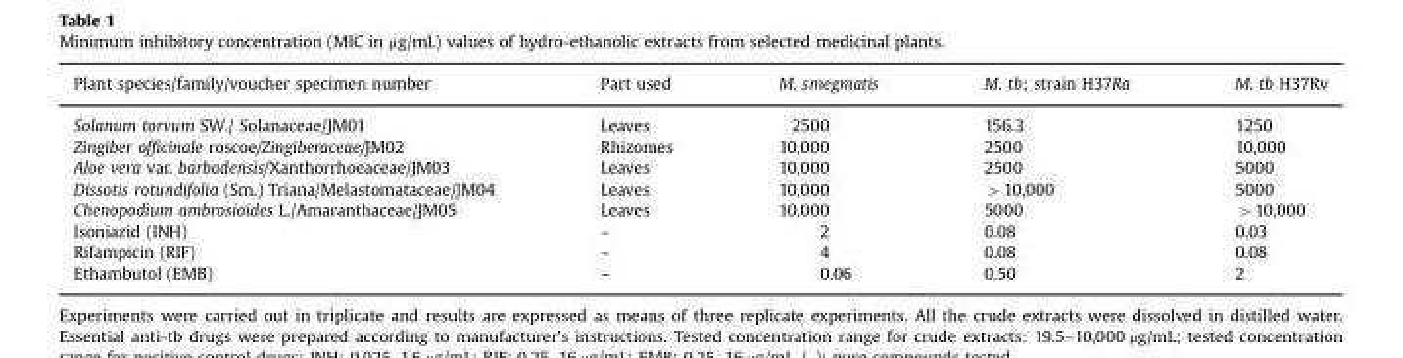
<table><thead><tr><td>Plant species/family/voucher specimen number</td><td>Part used</td><td>M. smegmatis</td><td>M. tb; strain H37Ra</td><td>M. tb H37Rv</td></tr></thead><tbody><tr><td>Solanum torvum SW./ Solanaceae/JM01</td><td>Leaves</td><td>2500</td><td>156.3</td><td>1250</td></tr><tr><td>Zingiber officinale roscoe/Zingiberaceae/JM02</td><td>Rhizomes</td><td>10,000</td><td>2500</td><td>10,000</td></tr><tr><td>Aloe vera var. barbadensis/Xanthorrhoeaceae/JM03</td><td>Leaves</td><td>10,000</td><td>2500</td><td>5000</td></tr><tr><td>Dissotis rotundifolia (Sm.) Triana/Melastomataceae/JM04</td><td>Leaves</td><td>10,000</td><td>&gt;10,000</td><td>5000</td></tr><tr><td>Chenopodium ambrosioides L./Amaranthaceae/JM05</td><td>Leaves</td><td>10,000</td><td>5000</td><td>&gt;10,000</td></tr><tr><td>Isoniazid (INH)</td><td>–</td><td>2</td><td>0.08</td><td>0.03</td></tr><tr><td>Rifampicin (RIF)</td><td>–</td><td>4</td><td>0.08</td><td>0.08</td></tr><tr><td>Ethambutol (EMB)</td><td>–</td><td>0.06</td><td>0.50</td><td>2</td></tr></tbody></table>